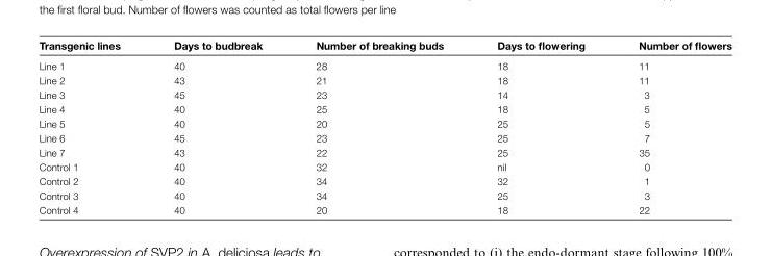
<table><thead><tr><td>Transgenic lines</td><td>Days to budbreak</td><td>Number of breaking buds</td><td>Days to flowering</td><td>Number of flowers</td></tr></thead><tbody><tr><td>Line 1</td><td>40</td><td>28</td><td>18</td><td>11</td></tr><tr><td>Line 2</td><td>43</td><td>21</td><td>18</td><td>11</td></tr><tr><td>Line 3</td><td>45</td><td>23</td><td>14</td><td>3</td></tr><tr><td>Line 4</td><td>40</td><td>25</td><td>18</td><td>5</td></tr><tr><td>Line 5</td><td>40</td><td>20</td><td>25</td><td>5</td></tr><tr><td>Line 6</td><td>45</td><td>23</td><td>25</td><td>7</td></tr><tr><td>Line 7</td><td>43</td><td>22</td><td>25</td><td>35</td></tr><tr><td>Control 1</td><td>40</td><td>32</td><td>nil</td><td>0</td></tr><tr><td>Control 2</td><td>40</td><td>34</td><td>32</td><td>1</td></tr><tr><td>Control 3</td><td>40</td><td>34</td><td>25</td><td>3</td></tr><tr><td>Control 4</td><td>40</td><td>20</td><td>18</td><td>22</td></tr></tbody></table>